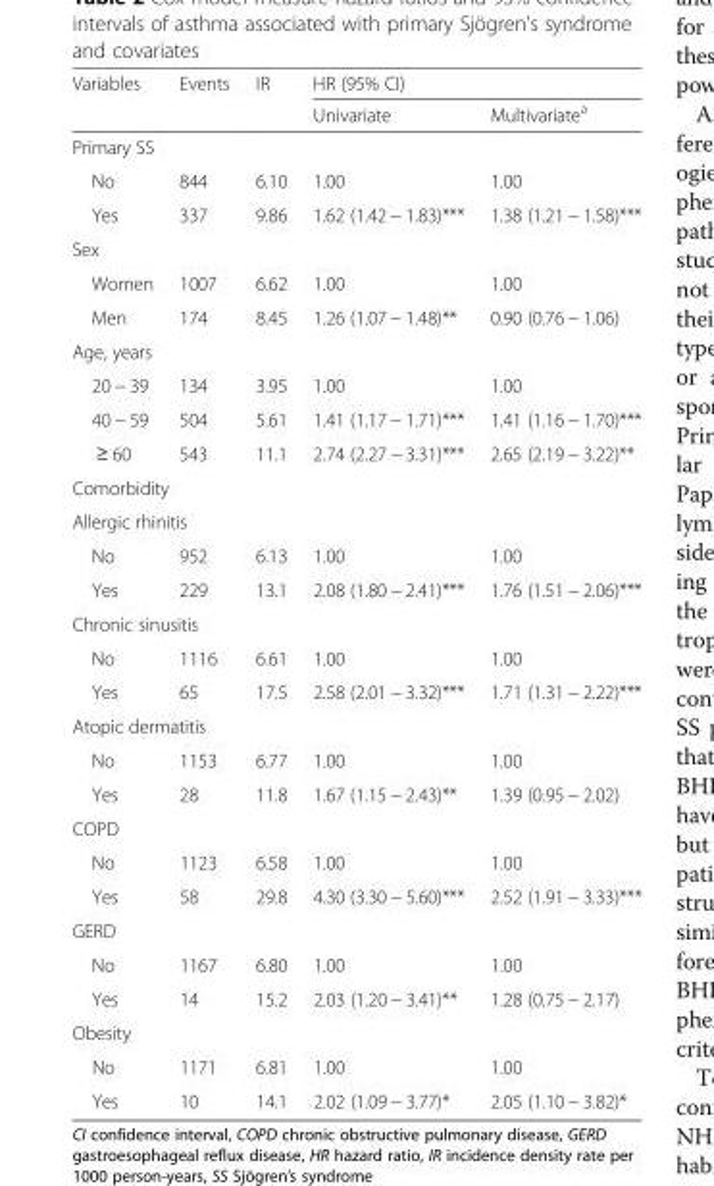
<table><thead><tr><td rowspan="2">Variables</td><td rowspan="2">Events</td><td rowspan="2">IR</td><td colspan="2">HR (95% CI)</td></tr><tr><td>Univariate</td><td>Multivariate<sup>a</sup></td></tr></thead><tbody><tr><td colspan="5">Primary SS</td></tr><tr><td>No</td><td>844</td><td>6.10</td><td>1.00</td><td>1.00</td></tr><tr><td>Yes</td><td>337</td><td>9.86</td><td>1.62 (1.42 − 1.83)***</td><td>1.38 (1.21 − 1.58)***</td></tr><tr><td colspan="5">Sex</td></tr><tr><td>Women</td><td>1007</td><td>6.62</td><td>1.00</td><td>1.00</td></tr><tr><td>Men</td><td>174</td><td>8.45</td><td>1.26 (1.07 − 1.48)**</td><td>0.90 (0.76 − 1.06)</td></tr><tr><td colspan="5">Age, years</td></tr><tr><td>20 − 39</td><td>134</td><td>3.95</td><td>1.00</td><td>1.00</td></tr><tr><td>40 − 59</td><td>504</td><td>5.61</td><td>1.41 (1.17 − 1.71)***</td><td>1.41 (1.16 − 1.70)***</td></tr><tr><td>≥ 60</td><td>543</td><td>11.1</td><td>2.74 (2.27 − 3.31)***</td><td>2.65 (2.19 − 3.22)**</td></tr><tr><td colspan="5">Comorbidity</td></tr><tr><td colspan="5">Allergic rhinitis</td></tr><tr><td>No</td><td>952</td><td>6.13</td><td>1.00</td><td>1.00</td></tr><tr><td>Yes</td><td>229</td><td>13.1</td><td>2.08 (1.80 − 2.41)***</td><td>1.76 (1.51 − 2.06)***</td></tr><tr><td colspan="5">Chronic sinusitis</td></tr><tr><td>No</td><td>1116</td><td>6.61</td><td>1.00</td><td>1.00</td></tr><tr><td>Yes</td><td>65</td><td>17.5</td><td>2.58 (2.01 − 3.32)***</td><td>1.71 (1.31 − 2.22)***</td></tr><tr><td colspan="5">Atopic dermatitis</td></tr><tr><td>No</td><td>1153</td><td>6.77</td><td>1.00</td><td>1.00</td></tr><tr><td>Yes</td><td>28</td><td>11.8</td><td>1.67 (1.15 − 2.43)**</td><td>1.39 (0.95 − 2.02)</td></tr><tr><td colspan="5">COPD</td></tr><tr><td>No</td><td>1123</td><td>6.58</td><td>1.00</td><td>1.00</td></tr><tr><td>Yes</td><td>58</td><td>29.8</td><td>4.30 (3.30 − 5.60)***</td><td>2.52 (1.91 − 3.33)***</td></tr><tr><td colspan="5">GERD</td></tr><tr><td>No</td><td>1167</td><td>6.80</td><td>1.00</td><td>1.00</td></tr><tr><td>Yes</td><td>14</td><td>15.2</td><td>2.03 (1.20 − 3.41)**</td><td>1.28 (0.75 − 2.17)</td></tr><tr><td colspan="5">Obesity</td></tr><tr><td>No</td><td>1171</td><td>6.81</td><td>1.00</td><td>1.00</td></tr><tr><td>Yes</td><td>10</td><td>14.1</td><td>2.02 (1.09 − 3.77)*</td><td>2.05 (1.10 − 3.82)*</td></tr></tbody></table>